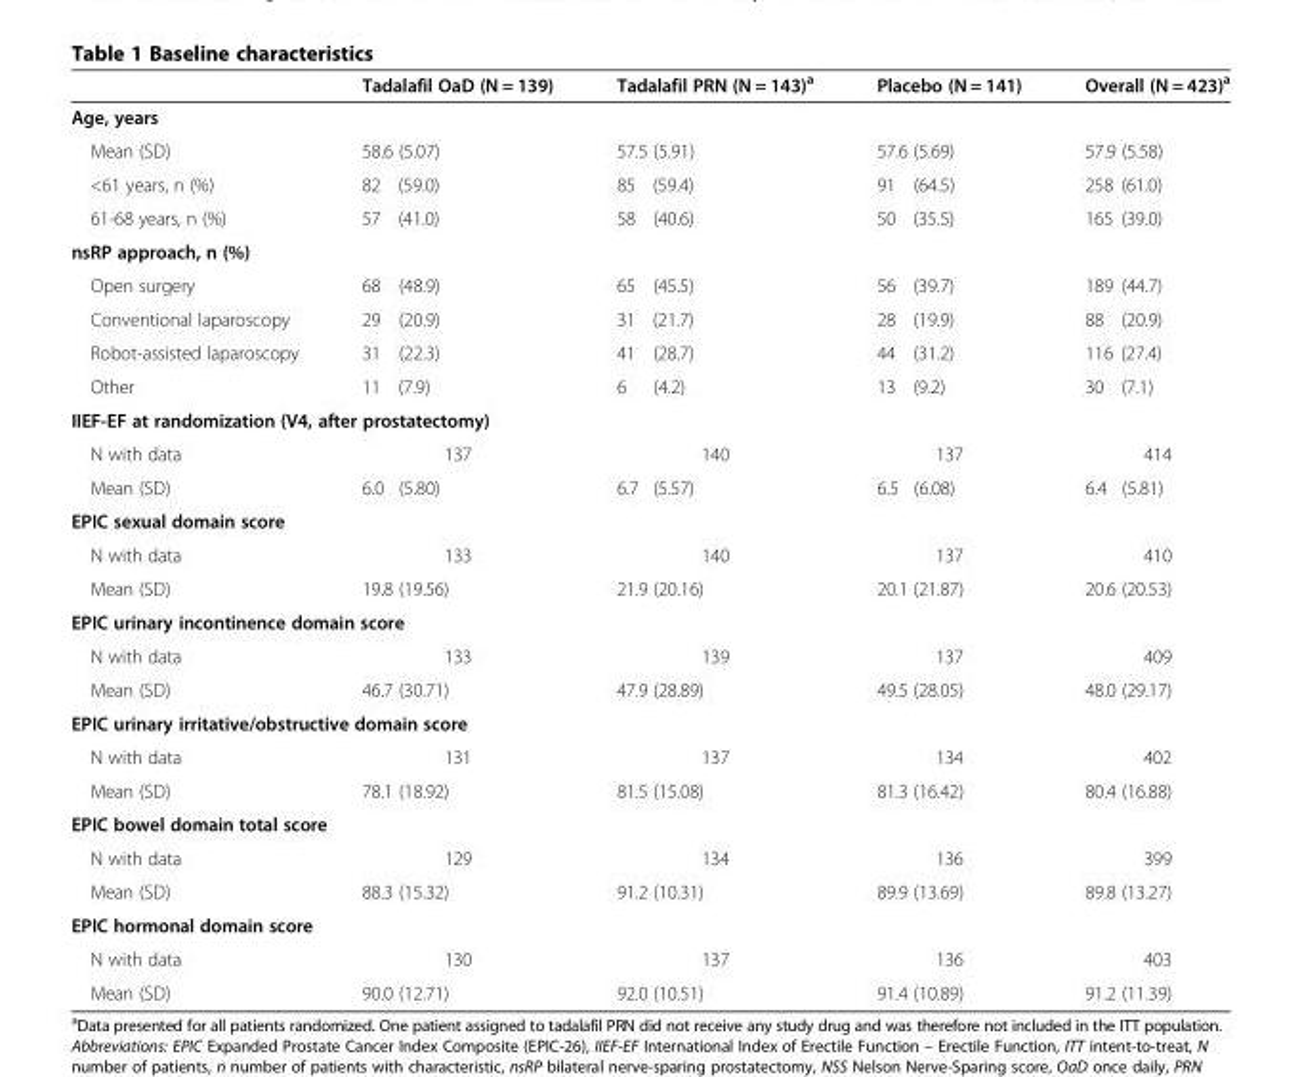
<table><thead><tr><td></td><td>Tadalafil OaD (N = 139)</td><td>Tadalafil PRN (N = 143)<sup>a</sup></td><td>Placebo (N = 141)</td><td>Overall (N = 423)<sup>a</sup></td></tr></thead><tbody><tr><td colspan="5">Age, years</td></tr><tr><td>Mean (SD)</td><td>58.6 (5.07)</td><td>57.5 (5.91)</td><td>57.6 (5.69)</td><td>57.9 (5.58)</td></tr><tr><td>&lt;61 years, n (%)</td><td>82 (59.0)</td><td>85 (59.4)</td><td>91 (64.5)</td><td>258 (61.0)</td></tr><tr><td>61-68 years, n (%)</td><td>57 (41.0)</td><td>58 (40.6)</td><td>50 (35.5)</td><td>165 (39.0)</td></tr><tr><td colspan="5">nsRP approach, n (%)</td></tr><tr><td>Open surgery</td><td>68 (48.9)</td><td>65 (45.5)</td><td>56 (39.7)</td><td>189 (44.7)</td></tr><tr><td>Conventional laparoscopy</td><td>29 (20.9)</td><td>31 (21.7)</td><td>28 (19.9)</td><td>88 (20.9)</td></tr><tr><td>Robot-assisted laparoscopy</td><td>31 (22.3)</td><td>41 (28.7)</td><td>44 (31.2)</td><td>116 (27.4)</td></tr><tr><td>Other</td><td>11 (7.9)</td><td>6 (4.2)</td><td>13 (9.2)</td><td>30 (7.1)</td></tr><tr><td colspan="5">IIEF-EF at randomization (V4, after prostatectomy)</td></tr><tr><td>N with data</td><td>137</td><td>140</td><td>137</td><td>414</td></tr><tr><td>Mean (SD)</td><td>6.0 (5.80)</td><td>6.7 (5.57)</td><td>6.5 (6.08)</td><td>6.4 (5.81)</td></tr><tr><td colspan="5">EPIC sexual domain score</td></tr><tr><td>N with data</td><td>133</td><td>140</td><td>137</td><td>410</td></tr><tr><td>Mean (SD)</td><td>19.8 (19.56)</td><td>21.9 (20.16)</td><td>20.1 (21.87)</td><td>20.6 (20.53)</td></tr><tr><td colspan="5">EPIC urinary incontinence domain score</td></tr><tr><td>N with data</td><td>133</td><td>139</td><td>137</td><td>409</td></tr><tr><td>Mean (SD)</td><td>46.7 (30.71)</td><td>47.9 (28.89)</td><td>49.5 (28.05)</td><td>48.0 (29.17)</td></tr><tr><td colspan="5">EPIC urinary irritative/obstructive domain score</td></tr><tr><td>N with data</td><td>131</td><td>137</td><td>134</td><td>402</td></tr><tr><td>Mean (SD)</td><td>78.1 (18.92)</td><td>81.5 (15.08)</td><td>81.3 (16.42)</td><td>80.4 (16.88)</td></tr><tr><td colspan="5">EPIC bowel domain total score</td></tr><tr><td>N with data</td><td>129</td><td>134</td><td>136</td><td>399</td></tr><tr><td>Mean (SD)</td><td>88.3 (15.32)</td><td>91.2 (10.31)</td><td>89.9 (13.69)</td><td>89.8 (13.27)</td></tr><tr><td colspan="5">EPIC hormonal domain score</td></tr><tr><td>N with data</td><td>130</td><td>137</td><td>136</td><td>403</td></tr><tr><td>Mean (SD)</td><td>90.0 (12.71)</td><td>92.0 (10.51)</td><td>91.4 (10.89)</td><td>91.2 (11.39)</td></tr></tbody></table>